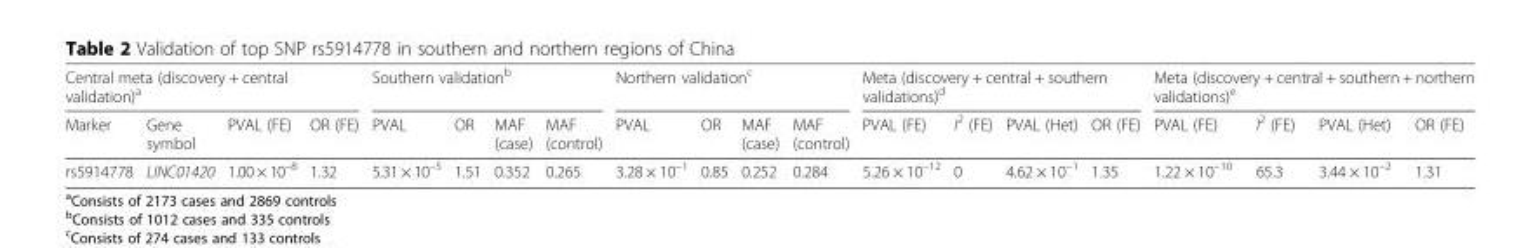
<table><thead><tr><td colspan="4">Central meta (discovery + central validation)<sup>a</sup></td><td colspan="4">Southern validation<sup>b</sup></td><td colspan="4">Northern validation<sup>c</sup></td><td colspan="4">Meta (discovery + central + southern validations)<sup>d</sup></td><td colspan="4">Meta (discovery + central + southern + northern validations)<sup>e</sup></td></tr><tr><td>Marker</td><td>Gene symbol</td><td>PVAL (FE)</td><td>OR (FE)</td><td>PVAL</td><td>OR</td><td>MAF (case)</td><td>MAF (control)</td><td>PVAL</td><td>OR</td><td>MAF (case)</td><td>MAF (control)</td><td>PVAL (FE)</td><td>I<sup>2</sup> (FE)</td><td>PVAL (Het)</td><td>OR (FE)</td><td>PVAL (FE)</td><td>I<sup>2</sup> (FE)</td><td>PVAL (Het)</td><td>OR (FE)</td></tr></thead><tbody><tr><td>rs5914778</td><td>LINC01420</td><td>1.00 × 10<sup>–8</sup></td><td>1.32</td><td>5.31 × 10<sup>–5</sup></td><td>1.51</td><td>0.352</td><td>0.265</td><td>3.28 × 10<sup>–1</sup></td><td>0.85</td><td>0.252</td><td>0.284</td><td>5.26 × 10<sup>–12</sup></td><td>0</td><td>4.62 × 10<sup>–1</sup></td><td>1.35</td><td>1.22 × 10<sup>–10</sup></td><td>65.3</td><td>3.44 × 10<sup>–2</sup></td><td>1.31</td></tr></tbody></table>